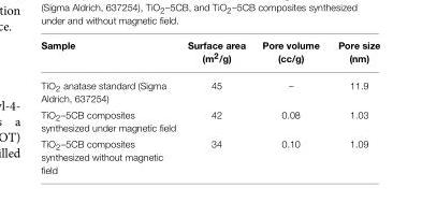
<table><thead><tr><td>Sample</td><td>Surface area (m<sup>2</sup>/g)</td><td>Pore volume (cc/g)</td><td>Pore size (nm)</td></tr></thead><tbody><tr><td>TiO<sub>2</sub> anatase standard (Sigma Aldrich, 637254)</td><td>45</td><td>–</td><td>11.9</td></tr><tr><td>TiO<sub>2</sub>–5CB composites synthesized under magnetic field</td><td>42</td><td>0.08</td><td>1.03</td></tr><tr><td>TiO<sub>2</sub>–5CB composites synthesized without magnetic field</td><td>34</td><td>0.10</td><td>1.09</td></tr></tbody></table>